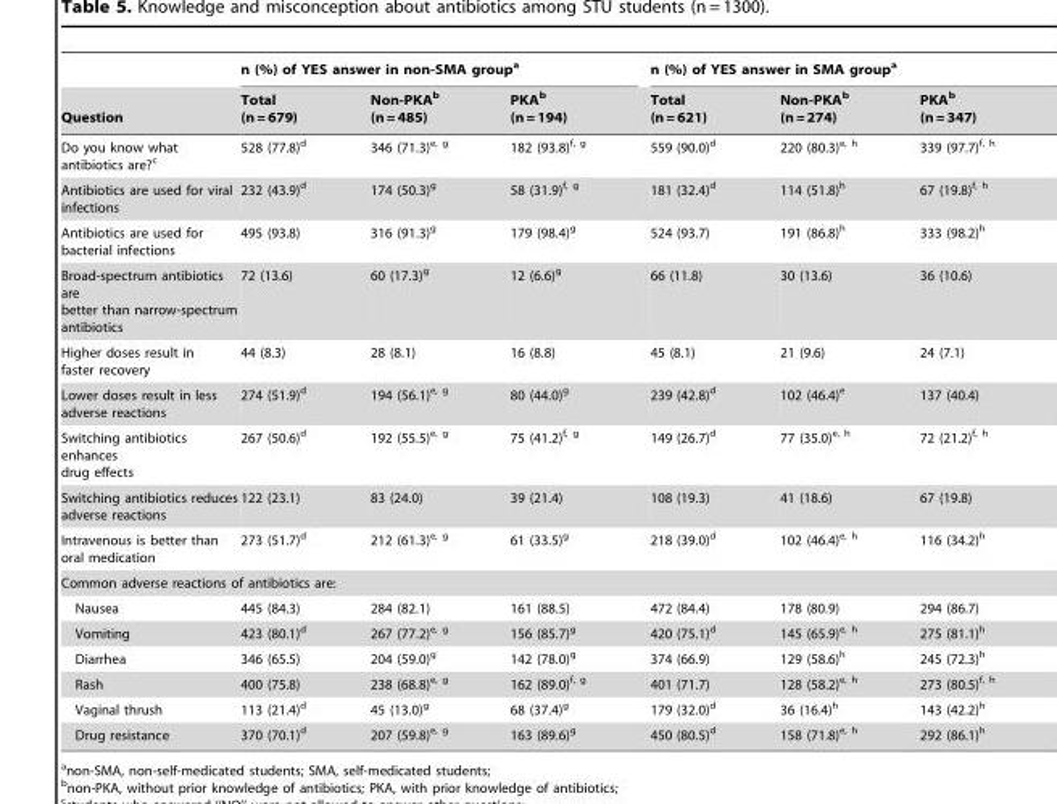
<table><thead><tr><td rowspan="2">Question</td><td colspan="3">n (%) of YES answer in non-SMA group<sup>a</sup></td><td colspan="3">n (%) of YES answer in SMA group<sup>a</sup></td></tr><tr><td>Total (n = 679)</td><td>Non-PKA<sup>b</sup> (n = 485)</td><td>PKA<sup>b</sup> (n = 194)</td><td>Total (n = 621)</td><td>Non-PKA<sup>b</sup> (n = 274)</td><td>PKA<sup>b</sup> (n = 347)</td></tr></thead><tbody><tr><td>Do you know what antibiotics are?<sup>c</sup></td><td>528 (77.8)<sup>d</sup></td><td>346 (71.3)e, g</td><td>182 (93.8)f, g</td><td>559 (90.0)<sup>d</sup></td><td>220 (80.3)e, h</td><td>339 (97.7)f, h</td></tr><tr><td>Antibiotics are used for viral infections</td><td>232 (43.9)<sup>d</sup></td><td>174 (50.3)<sup>g</sup></td><td>58 (31.9)f, g</td><td>181 (32.4)<sup>d</sup></td><td>114 (51.8)<sup>h</sup></td><td>67 (19.8)f, h</td></tr><tr><td>Antibiotics are used for bacterial infections</td><td>495 (93.8)</td><td>316 (91.3)<sup>g</sup></td><td>179 (98.4)<sup>g</sup></td><td>524 (93.7)</td><td>191 (86.8)<sup>h</sup></td><td>333 (98.2)<sup>h</sup></td></tr><tr><td>Broad-spectrum antibiotics are better than narrow-spectrum antibiotics</td><td>72 (13.6)</td><td>60 (17.3)<sup>g</sup></td><td>12 (6.6)<sup>g</sup></td><td>66 (11.8)</td><td>30 (13.6)</td><td>36 (10.6)</td></tr><tr><td>Higher doses result in faster recovery</td><td>44 (8.3)</td><td>28 (8.1)</td><td>16 (8.8)</td><td>45 (8.1)</td><td>21 (9.6)</td><td>24 (7.1)</td></tr><tr><td>Lower doses result in less adverse reactions</td><td>274 (51.9)<sup>d</sup></td><td>194 (56.1)e, g</td><td>80 (44.0)<sup>g</sup></td><td>239 (42.8)<sup>d</sup></td><td>102 (46.4)<sup>e</sup></td><td>137 (40.4)</td></tr><tr><td>Switching antibiotics enhances drug effects</td><td>267 (50.6)<sup>d</sup></td><td>192 (55.5)e, g</td><td>75 (41.2)f, g</td><td>149 (26.7)<sup>d</sup></td><td>77 (35.0)e, h</td><td>72 (21.2)f, h</td></tr><tr><td>Switching antibiotics reduces adverse reactions</td><td>122 (23.1)</td><td>83 (24.0)</td><td>39 (21.4)</td><td>108 (19.3)</td><td>41 (18.6)</td><td>67 (19.8)</td></tr><tr><td>Intravenous is better than oral medication</td><td>273 (51.7)<sup>d</sup></td><td>212 (61.3)e, g</td><td>61 (33.5)<sup>g</sup></td><td>218 (39.0)<sup>d</sup></td><td>102 (46.4)e, h</td><td>116 (34.2)<sup>h</sup></td></tr><tr><td colspan="7">Common adverse reactions of antibiotics are:</td></tr><tr><td>Nausea</td><td>445 (84.3)</td><td>284 (82.1)</td><td>161 (88.5)</td><td>472 (84.4)</td><td>178 (80.9)</td><td>294 (86.7)</td></tr><tr><td>Vomiting</td><td>423 (80.1)<sup>d</sup></td><td>267 (77.2)e, g</td><td>156 (85.7)<sup>g</sup></td><td>420 (75.1)<sup>d</sup></td><td>145 (65.9)e, h</td><td>275 (81.1)<sup>h</sup></td></tr><tr><td>Diarrhea</td><td>346 (65.5)</td><td>204 (59.0)<sup>g</sup></td><td>142 (78.0)<sup>g</sup></td><td>374 (66.9)</td><td>129 (58.6)<sup>h</sup></td><td>245 (72.3)<sup>h</sup></td></tr><tr><td>Rash</td><td>400 (75.8)</td><td>238 (68.8)e, g</td><td>162 (89.0)f, g</td><td>401 (71.7)</td><td>128 (58.2)e, h</td><td>273 (80.5)f, h</td></tr><tr><td>Vaginal thrush</td><td>113 (21.4)<sup>d</sup></td><td>45 (13.0)<sup>g</sup></td><td>68 (37.4)<sup>g</sup></td><td>179 (32.0)<sup>d</sup></td><td>36 (16.4)<sup>h</sup></td><td>143 (42.2)<sup>h</sup></td></tr><tr><td>Drug resistance</td><td>370 (70.1)<sup>d</sup></td><td>207 (59.8)e, g</td><td>163 (89.6)<sup>g</sup></td><td>450 (80.5)<sup>d</sup></td><td>158 (71.8)e, h</td><td>292 (86.1)<sup>h</sup></td></tr></tbody></table>